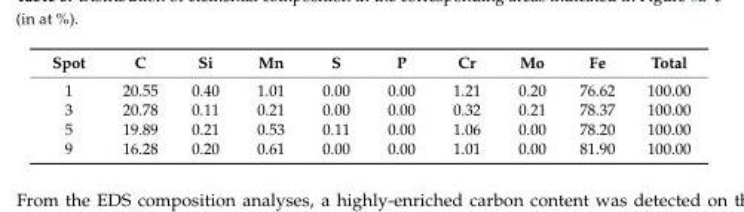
<table><thead><tr><td>Spot</td><td>C</td><td>Si</td><td>Mn</td><td>S</td><td>P</td><td>Cr</td><td>Mo</td><td>Fe</td><td>Total</td></tr></thead><tbody><tr><td>1</td><td>20.55</td><td>0.40</td><td>1.01</td><td>0.00</td><td>0.00</td><td>1.21</td><td>0.20</td><td>76.62</td><td>100.00</td></tr><tr><td>3</td><td>20.78</td><td>0.11</td><td>0.21</td><td>0.00</td><td>0.00</td><td>0.32</td><td>0.21</td><td>78.37</td><td>100.00</td></tr><tr><td>5</td><td>19.89</td><td>0.21</td><td>0.53</td><td>0.11</td><td>0.00</td><td>1.06</td><td>0.00</td><td>78.20</td><td>100.00</td></tr><tr><td>9</td><td>16.28</td><td>0.20</td><td>0.61</td><td>0.00</td><td>0.00</td><td>1.01</td><td>0.00</td><td>81.90</td><td>100.00</td></tr></tbody></table>